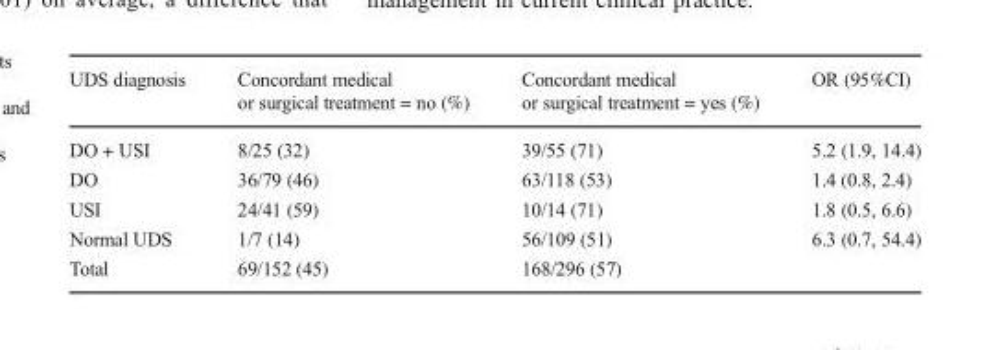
<table><thead><tr><td>UDS diagnosis</td><td>Concordant medical or surgical treatment = no (%)</td><td>Concordant medical or surgical treatment = yes (%)</td><td>OR (95%CI)</td></tr></thead><tbody><tr><td>DO + USI</td><td>8/25 (32)</td><td>39/55 (71)</td><td>5.2 (1.9, 14.4)</td></tr><tr><td>DO</td><td>36/79 (46)</td><td>63/118 (53)</td><td>1.4 (0.8, 2.4)</td></tr><tr><td>USI</td><td>24/41 (59)</td><td>10/14 (71)</td><td>1.8 (0.5, 6.6)</td></tr><tr><td>Normal UDS</td><td>1/7 (14)</td><td>56/109 (51)</td><td>6.3 (0.7, 54.4)</td></tr><tr><td>Total</td><td>69/152 (45)</td><td>168/296 (57)</td><td></td></tr></tbody></table>